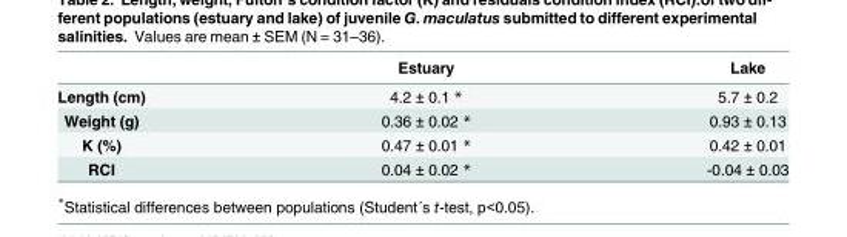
<table><thead><tr><td></td><td>Estuary</td><td>Lake</td></tr></thead><tbody><tr><td>Length (cm)</td><td>4.2 ± 0.1 *</td><td>5.7 ± 0.2</td></tr><tr><td>Weight (g)</td><td>0.36 ± 0.02 *</td><td>0.93 ± 0.13</td></tr><tr><td>K (%)</td><td>0.47 ± 0.01 *</td><td>0.42 ± 0.01</td></tr><tr><td>RCI</td><td>0.04 ± 0.02 *</td><td>-0.04 ± 0.03</td></tr></tbody></table>